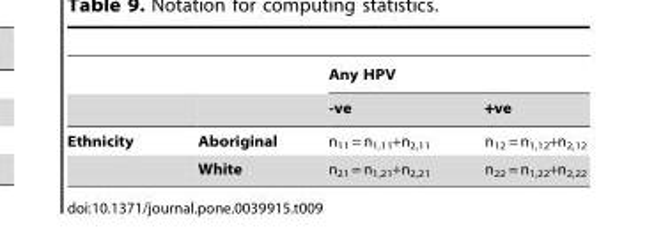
<table><thead><tr><td rowspan="2"></td><td rowspan="2"></td><td colspan="2">Any HPV</td></tr><tr><td>-ve</td><td>+ve</td></tr></thead><tbody><tr><td rowspan="2">Ethnicity</td><td>Aboriginal</td><td>n<sub>11</sub> = n<sub>1,11</sub>+n<sub>2,11</sub></td><td>n<sub>12</sub> = n<sub>1,12</sub>+n<sub>2,12</sub></td></tr><tr><td>White</td><td>n<sub>21</sub> = n<sub>1,21</sub>+n<sub>2,21</sub></td><td>n<sub>22</sub> = n<sub>1,22</sub>+n<sub>2,22</sub></td></tr></tbody></table>